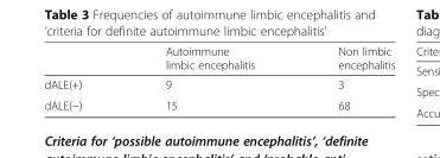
<table><thead><tr><td></td><td>Autoimmune limbic encephalitis</td><td>Non limbic encephalitis</td></tr></thead><tbody><tr><td>dALE(+)</td><td>9</td><td>3</td></tr><tr><td>dALE(−)</td><td>15</td><td>68</td></tr></tbody></table>